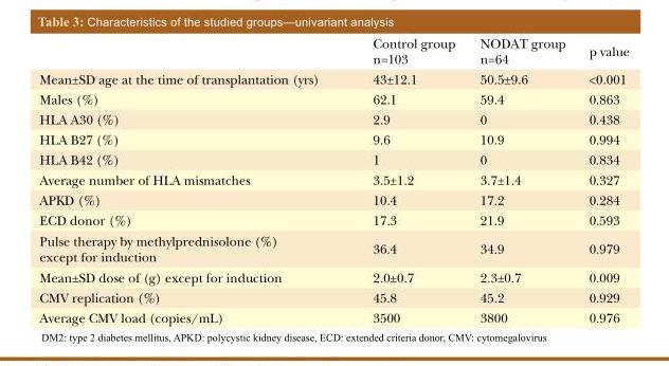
<table><thead><tr><td></td><td>Control group n=103</td><td>NODAT group n=64</td><td>p value</td></tr></thead><tbody><tr><td>Mean±SD age at the time of transplantation (yrs)</td><td>43±12.1</td><td>50.5±9.6</td><td>&lt;0.001</td></tr><tr><td>Males (%)</td><td>62.1</td><td>59.4</td><td>0.863</td></tr><tr><td>HLA A30 (%)</td><td>2.9</td><td>0</td><td>0.438</td></tr><tr><td>HLA B27 (%)</td><td>9.6</td><td>10.9</td><td>0.994</td></tr><tr><td>HLA B42 (%)</td><td>1</td><td>0</td><td>0.834</td></tr><tr><td>Average number of HLA mismatches</td><td>3.5±1.2</td><td>3.7±1.4</td><td>0.327</td></tr><tr><td>APKD (%)</td><td>10.4</td><td>17.2</td><td>0.284</td></tr><tr><td>ECD donor (%)</td><td>17.3</td><td>21.9</td><td>0.593</td></tr><tr><td>Pulse therapy by methylprednisolone (%) except for induction</td><td>36.4</td><td>34.9</td><td>0.979</td></tr><tr><td>Mean±SD dose of (g) except for induction</td><td>2.0±0.7</td><td>2.3±0.7</td><td>0.009</td></tr><tr><td>CMV replication (%)</td><td>45.8</td><td>45.2</td><td>0.929</td></tr><tr><td>Average CMV load (copies/mL)</td><td>3500</td><td>3800</td><td>0.976</td></tr></tbody></table>